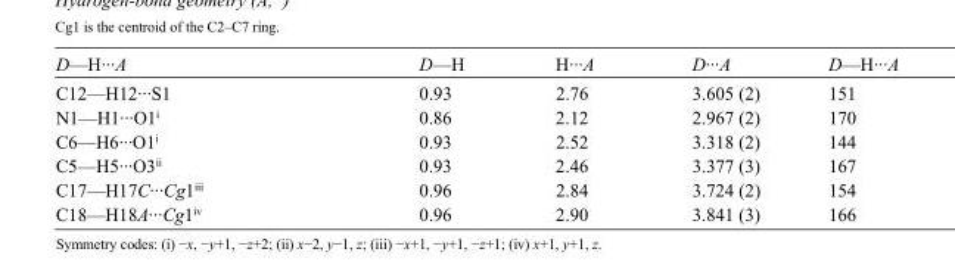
<table><tbody><tr><td>D—H···A</td><td>D—H</td><td>H···A</td><td>D···A</td><td>D—H···A</td></tr><tr><td>C12—H12···S1</td><td>0.93</td><td>2.76</td><td>3.605 (2)</td><td>151</td></tr><tr><td>N1—H1···O1<sup>i</sup></td><td>0.86</td><td>2.12</td><td>2.967 (2)</td><td>170</td></tr><tr><td>C6—H6···O1<sup>i</sup></td><td>0.93</td><td>2.52</td><td>3.318 (2)</td><td>144</td></tr><tr><td>C5—H5···O3<sup>ii</sup></td><td>0.93</td><td>2.46</td><td>3.377 (3)</td><td>167</td></tr><tr><td>C17—H17C···Cg1<sup>iii</sup></td><td>0.96</td><td>2.84</td><td>3.724 (2)</td><td>154</td></tr><tr><td>C18—H18A···Cg1<sup>iv</sup></td><td>0.96</td><td>2.90</td><td>3.841 (3)</td><td>166</td></tr></tbody></table>